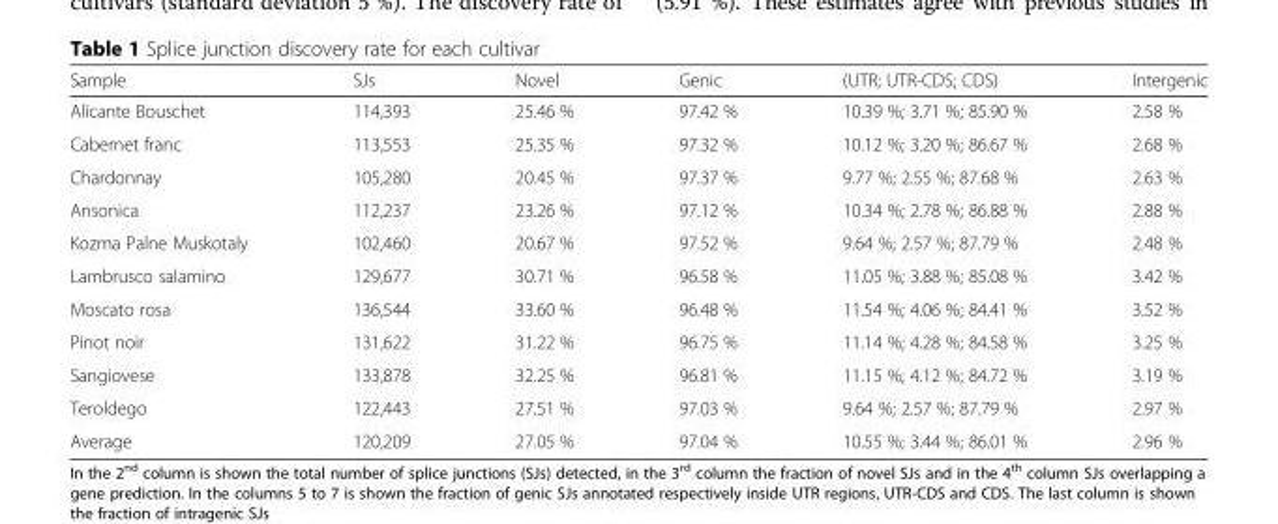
<table><thead><tr><td>Sample</td><td>SJs</td><td>Novel</td><td>Genic</td><td>(UTR; UTR-CDS; CDS)</td><td>Intergenic</td></tr></thead><tbody><tr><td>Alicante Bouschet</td><td>114,393</td><td>25.46 %</td><td>97.42 %</td><td>10.39 %; 3.71 %; 85.90 %</td><td>2.58 %</td></tr><tr><td>Cabernet franc</td><td>113,553</td><td>25.35 %</td><td>97.32 %</td><td>10.12 %; 3.20 %; 86.67 %</td><td>2.68 %</td></tr><tr><td>Chardonnay</td><td>105,280</td><td>20.45 %</td><td>97.37 %</td><td>9.77 %; 2.55 %; 87.68 %</td><td>2.63 %</td></tr><tr><td>Ansonica</td><td>112,237</td><td>23.26 %</td><td>97.12 %</td><td>10.34 %; 2.78 %; 86.88 %</td><td>2.88 %</td></tr><tr><td>Kozma Palne Muskotaly</td><td>102,460</td><td>20.67 %</td><td>97.52 %</td><td>9.64 %; 2.57 %; 87.79 %</td><td>2.48 %</td></tr><tr><td>Lambrusco salamino</td><td>129,677</td><td>30.71 %</td><td>96.58 %</td><td>11.05 %; 3.88 %; 85.08 %</td><td>3.42 %</td></tr><tr><td>Moscato rosa</td><td>136,544</td><td>33.60 %</td><td>96.48 %</td><td>11.54 %; 4.06 %; 84.41 %</td><td>3.52 %</td></tr><tr><td>Pinot noir</td><td>131,622</td><td>31.22 %</td><td>96.75 %</td><td>11.14 %; 4.28 %; 84.58 %</td><td>3.25 %</td></tr><tr><td>Sangiovese</td><td>133,878</td><td>32.25 %</td><td>96.81 %</td><td>11.15 %; 4.12 %; 84.72 %</td><td>3.19 %</td></tr><tr><td>Teroldego</td><td>122,443</td><td>27.51 %</td><td>97.03 %</td><td>9.64 %; 2.57 %; 87.79 %</td><td>2.97 %</td></tr><tr><td>Average</td><td>120,209</td><td>27.05 %</td><td>97.04 %</td><td>10.55 %; 3.44 %; 86.01 %</td><td>2.96 %</td></tr></tbody></table>